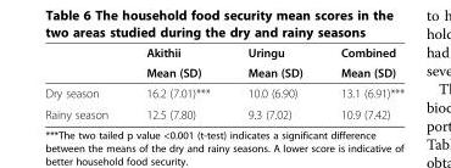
<table><thead><tr><td rowspan="2"></td><td rowspan="2">Akithii Mean (SD)</td><td rowspan="2">Uringu Mean (SD)</td><td rowspan="2">Combined Mean (SD)</td></tr><tr></tr></thead><tbody><tr><td>Dry season</td><td>16.2 (7.01)***</td><td>10.0 (6.90)</td><td>13.1 (6.91)***</td></tr><tr><td>Rainy season</td><td>12.5 (7.80)</td><td>9.3 (7.02)</td><td>10.9 (7.42)</td></tr></tbody></table>